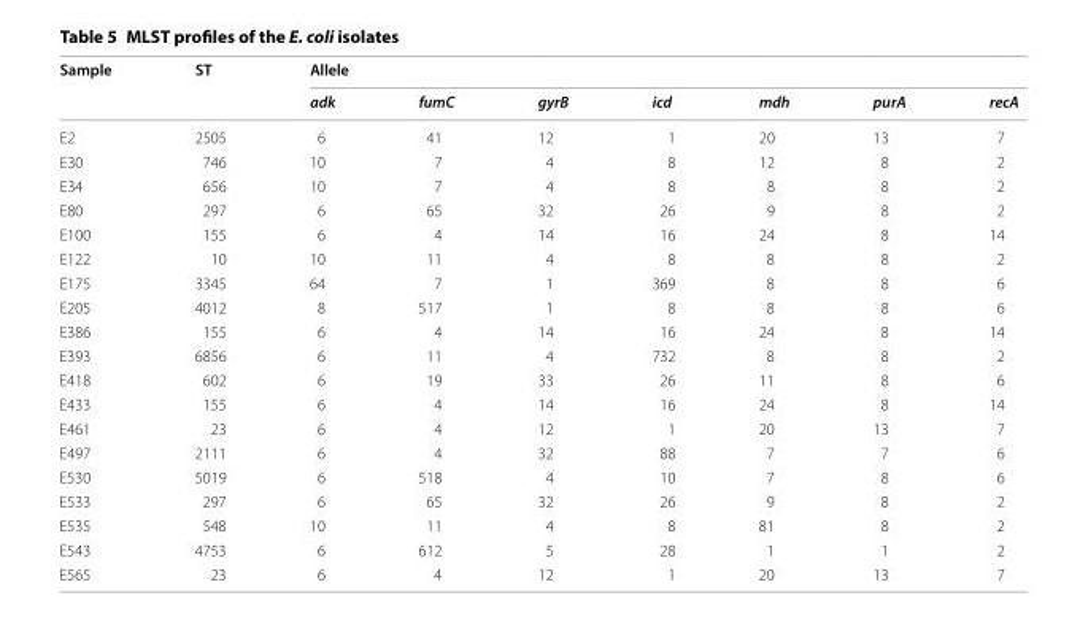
<table><thead><tr><td rowspan="2">Sample</td><td rowspan="2">ST</td><td colspan="7">Allele</td></tr><tr><td>adk</td><td>fumC</td><td>gyrB</td><td>icd</td><td>mdh</td><td>purA</td><td>recA</td></tr></thead><tbody><tr><td>E2</td><td>2505</td><td>6</td><td>41</td><td>12</td><td>1</td><td>20</td><td>13</td><td>7</td></tr><tr><td>E30</td><td>746</td><td>10</td><td>7</td><td>4</td><td>8</td><td>12</td><td>8</td><td>2</td></tr><tr><td>E34</td><td>656</td><td>10</td><td>7</td><td>4</td><td>8</td><td>8</td><td>8</td><td>2</td></tr><tr><td>E80</td><td>297</td><td>6</td><td>65</td><td>32</td><td>26</td><td>9</td><td>8</td><td>2</td></tr><tr><td>E100</td><td>155</td><td>6</td><td>4</td><td>14</td><td>16</td><td>24</td><td>8</td><td>14</td></tr><tr><td>E122</td><td>10</td><td>10</td><td>11</td><td>4</td><td>8</td><td>8</td><td>8</td><td>2</td></tr><tr><td>E175</td><td>3345</td><td>64</td><td>7</td><td>1</td><td>369</td><td>8</td><td>8</td><td>6</td></tr><tr><td>E205</td><td>4012</td><td>8</td><td>517</td><td>1</td><td>8</td><td>8</td><td>8</td><td>6</td></tr><tr><td>E386</td><td>155</td><td>6</td><td>4</td><td>14</td><td>16</td><td>24</td><td>8</td><td>14</td></tr><tr><td>E393</td><td>6856</td><td>6</td><td>11</td><td>4</td><td>732</td><td>8</td><td>8</td><td>2</td></tr><tr><td>E418</td><td>602</td><td>6</td><td>19</td><td>33</td><td>26</td><td>11</td><td>8</td><td>6</td></tr><tr><td>E433</td><td>155</td><td>6</td><td>4</td><td>14</td><td>16</td><td>24</td><td>8</td><td>14</td></tr><tr><td>E461</td><td>23</td><td>6</td><td>4</td><td>12</td><td>1</td><td>20</td><td>13</td><td>7</td></tr><tr><td>E497</td><td>2111</td><td>6</td><td>4</td><td>32</td><td>88</td><td>7</td><td>7</td><td>6</td></tr><tr><td>E530</td><td>5019</td><td>6</td><td>518</td><td>4</td><td>10</td><td>7</td><td>8</td><td>6</td></tr><tr><td>E533</td><td>297</td><td>6</td><td>65</td><td>32</td><td>26</td><td>9</td><td>8</td><td>2</td></tr><tr><td>E535</td><td>548</td><td>10</td><td>11</td><td>4</td><td>8</td><td>81</td><td>8</td><td>2</td></tr><tr><td>E543</td><td>4753</td><td>6</td><td>612</td><td>5</td><td>28</td><td>1</td><td>1</td><td>2</td></tr><tr><td>E565</td><td>23</td><td>6</td><td>4</td><td>12</td><td>1</td><td>20</td><td>13</td><td>7</td></tr></tbody></table>